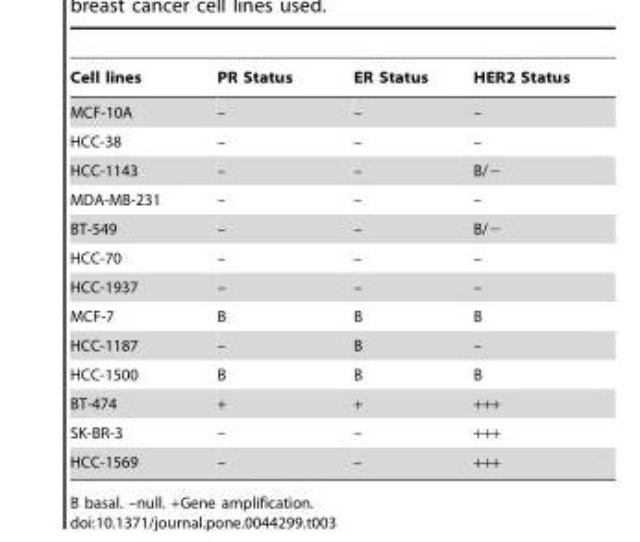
<table><thead><tr><td>Cell lines</td><td>PR Status</td><td>ER Status</td><td>HER2 Status</td></tr></thead><tbody><tr><td>MCF-10A</td><td>–</td><td>–</td><td>–</td></tr><tr><td>HCC-38</td><td>–</td><td>–</td><td>–</td></tr><tr><td>HCC-1143</td><td>–</td><td>–</td><td>B/−</td></tr><tr><td>MDA-MB-231</td><td>–</td><td>–</td><td>–</td></tr><tr><td>BT-549</td><td>–</td><td>–</td><td>B/−</td></tr><tr><td>HCC-70</td><td>–</td><td>–</td><td>–</td></tr><tr><td>HCC-1937</td><td>–</td><td>–</td><td>–</td></tr><tr><td>MCF-7</td><td>B</td><td>B</td><td>B</td></tr><tr><td>HCC-1187</td><td>–</td><td>B</td><td>–</td></tr><tr><td>HCC-1500</td><td>B</td><td>B</td><td>B</td></tr><tr><td>BT-474</td><td>+</td><td>+</td><td>+++</td></tr><tr><td>SK-BR-3</td><td>–</td><td>–</td><td>+++</td></tr><tr><td>HCC-1569</td><td>–</td><td>–</td><td>+++</td></tr></tbody></table>